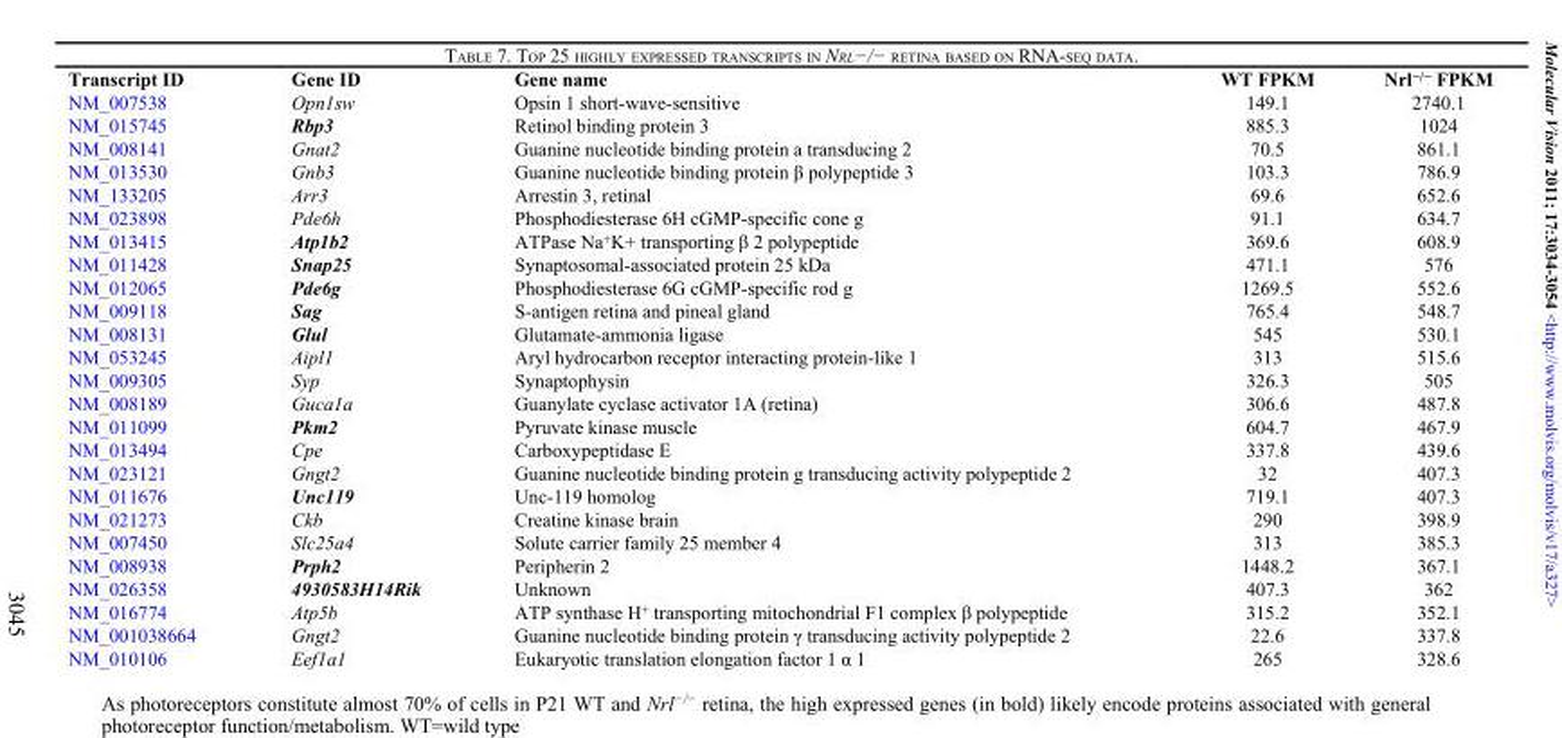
<table><thead><tr><td>Transcript ID</td><td>Gene ID</td><td>Gene name</td><td>WT FPKM</td><td>Nrl<sup>−/−</sup> FPKM</td></tr></thead><tbody><tr><td>NM_007538</td><td>Opn1sw</td><td>Opsin 1 short-wave-sensitive</td><td>149.1</td><td>2740.1</td></tr><tr><td>NM_015745</td><td>Rbp3</td><td>Retinol binding protein 3</td><td>885.3</td><td>1024</td></tr><tr><td>NM_008141</td><td>Gnat2</td><td>Guanine nucleotide binding protein a transducing 2</td><td>70.5</td><td>861.1</td></tr><tr><td>NM_013530</td><td>Gnb3</td><td>Guanine nucleotide binding protein β polypeptide 3</td><td>103.3</td><td>786.9</td></tr><tr><td>NM_133205</td><td>Arr3</td><td>Arrestin 3, retinal</td><td>69.6</td><td>652.6</td></tr><tr><td>NM_023898</td><td>Pde6h</td><td>Phosphodiesterase 6H cGMP-specific cone g</td><td>91.1</td><td>634.7</td></tr><tr><td>NM_013415</td><td>Atp1b2</td><td>ATPase Na<sup>+</sup>K+ transporting β 2 polypeptide</td><td>369.6</td><td>608.9</td></tr><tr><td>NM_011428</td><td>Snap25</td><td>Synaptosomal-associated protein 25 kDa</td><td>471.1</td><td>576</td></tr><tr><td>NM_012065</td><td>Pde6g</td><td>Phosphodiesterase 6G cGMP-specific rod g</td><td>1269.5</td><td>552.6</td></tr><tr><td>NM_009118</td><td>Sag</td><td>S-antigen retina and pineal gland</td><td>765.4</td><td>548.7</td></tr><tr><td>NM_008131</td><td>Glul</td><td>Glutamate-ammonia ligase</td><td>545</td><td>530.1</td></tr><tr><td>NM_053245</td><td>Aipl1</td><td>Aryl hydrocarbon receptor interacting protein-like 1</td><td>313</td><td>515.6</td></tr><tr><td>NM_009305</td><td>Syp</td><td>Synaptophysin</td><td>326.3</td><td>505</td></tr><tr><td>NM_008189</td><td>Guca1a</td><td>Guanylate cyclase activator 1A (retina)</td><td>306.6</td><td>487.8</td></tr><tr><td>NM_011099</td><td>Pkm2</td><td>Pyruvate kinase muscle</td><td>604.7</td><td>467.9</td></tr><tr><td>NM_013494</td><td>Cpe</td><td>Carboxypeptidase E</td><td>337.8</td><td>439.6</td></tr><tr><td>NM_023121</td><td>Gngt2</td><td>Guanine nucleotide binding protein g transducing activity polypeptide 2</td><td>32</td><td>407.3</td></tr><tr><td>NM_011676</td><td>Unc119</td><td>Unc-119 homolog</td><td>719.1</td><td>407.3</td></tr><tr><td>NM_021273</td><td>Ckb</td><td>Creatine kinase brain</td><td>290</td><td>398.9</td></tr><tr><td>NM_007450</td><td>Slc25a4</td><td>Solute carrier family 25 member 4</td><td>313</td><td>385.3</td></tr><tr><td>NM_008938</td><td>Prph2</td><td>Peripherin 2</td><td>1448.2</td><td>367.1</td></tr><tr><td>NM_026358</td><td>4930583H14Rik</td><td>Unknown</td><td>407.3</td><td>362</td></tr><tr><td>NM_016774</td><td>Atp5b</td><td>ATP synthase H<sup>+</sup> transporting mitochondrial F1 complex β polypeptide</td><td>315.2</td><td>352.1</td></tr><tr><td>NM_001038664</td><td>Gngt2</td><td>Guanine nucleotide binding protein γ transducing activity polypeptide 2</td><td>22.6</td><td>337.8</td></tr><tr><td>NM_010106</td><td>Eef1a1</td><td>Eukaryotic translation elongation factor 1 α 1</td><td>265</td><td>328.6</td></tr></tbody></table>